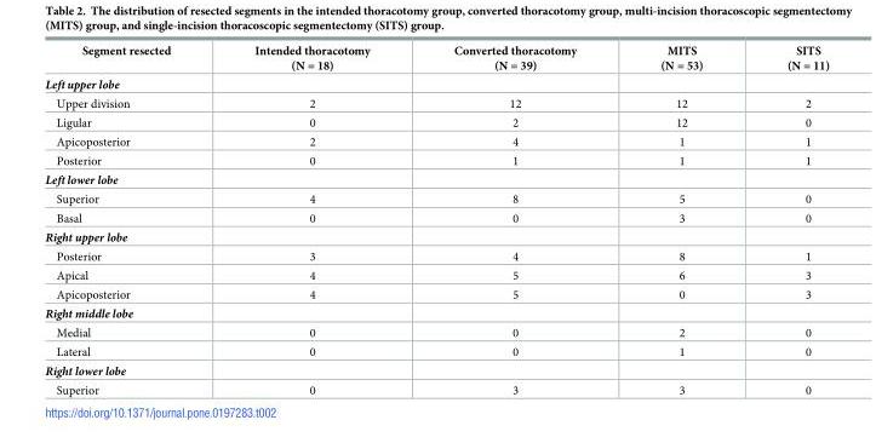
<table><thead><tr><td>Segment resected</td><td>Intended thoracotomy (N = 18)</td><td>Converted thoracotomy (N = 39)</td><td>MITS (N = 53)</td><td>SITS (N = 11)</td></tr></thead><tbody><tr><td colspan="5">Left upper lobe</td></tr><tr><td>Upper division</td><td>2</td><td>12</td><td>12</td><td>2</td></tr><tr><td>Ligular</td><td>0</td><td>2</td><td>12</td><td>0</td></tr><tr><td>Apicoposterior</td><td>2</td><td>4</td><td>1</td><td>1</td></tr><tr><td>Posterior</td><td>0</td><td>1</td><td>1</td><td>1</td></tr><tr><td colspan="5">Left lower lobe</td></tr><tr><td>Superior</td><td>4</td><td>8</td><td>5</td><td>0</td></tr><tr><td>Basal</td><td>0</td><td>0</td><td>3</td><td>0</td></tr><tr><td colspan="5">Right upper lobe</td></tr><tr><td>Posterior</td><td>3</td><td>4</td><td>8</td><td>1</td></tr><tr><td>Apical</td><td>4</td><td>5</td><td>6</td><td>3</td></tr><tr><td>Apicoposterior</td><td>4</td><td>5</td><td>0</td><td>3</td></tr><tr><td colspan="5">Right middle lobe</td></tr><tr><td>Medial</td><td>0</td><td>0</td><td>2</td><td>0</td></tr><tr><td>Lateral</td><td>0</td><td>0</td><td>1</td><td>0</td></tr><tr><td colspan="5">Right lower lobe</td></tr><tr><td>Superior</td><td>0</td><td>3</td><td>3</td><td>0</td></tr></tbody></table>